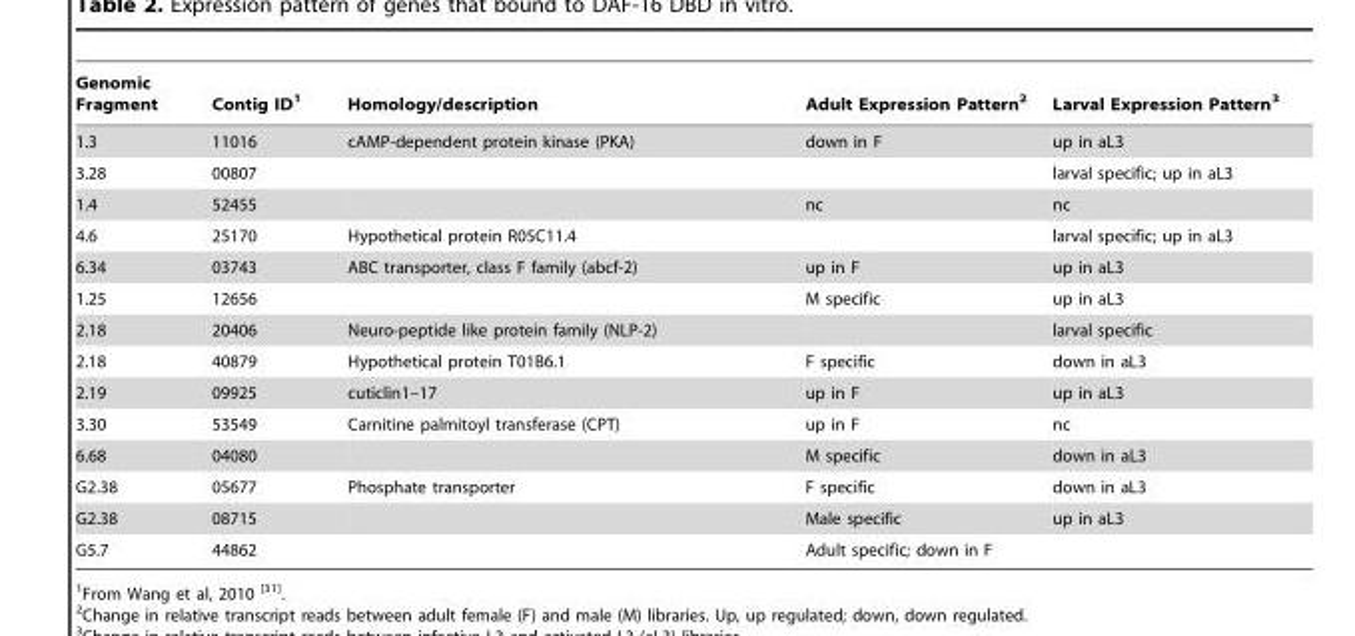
<table><thead><tr><td>Genomic Fragment</td><td>Contig ID<sup>1</sup></td><td>Homology/description</td><td>Adult Expression Pattern<sup>2</sup></td><td>Larval Expression Pattern<sup>3</sup></td></tr></thead><tbody><tr><td>1.3</td><td>11016</td><td>cAMP-dependent protein kinase (PKA)</td><td>down in F</td><td>up in aL3</td></tr><tr><td>3.28</td><td>00807</td><td></td><td></td><td>larval specific; up in aL3</td></tr><tr><td>1.4</td><td>52455</td><td></td><td>nc</td><td>nc</td></tr><tr><td>4.6</td><td>25170</td><td>Hypothetical protein R05C11.4</td><td></td><td>larval specific; up in aL3</td></tr><tr><td>6.34</td><td>03743</td><td>ABC transporter, class F family (abcf-2)</td><td>up in F</td><td>up in aL3</td></tr><tr><td>1.25</td><td>12656</td><td></td><td>M specific</td><td>up in aL3</td></tr><tr><td>2.18</td><td>20406</td><td>Neuro-peptide like protein family (NLP-2)</td><td></td><td>larval specific</td></tr><tr><td>2.18</td><td>40879</td><td>Hypothetical protein T01B6.1</td><td>F specific</td><td>down in aL3</td></tr><tr><td>2.19</td><td>09925</td><td>cuticlin1–17</td><td>up in F</td><td>up in aL3</td></tr><tr><td>3.30</td><td>53549</td><td>Carnitine palmitoyl transferase (CPT)</td><td>up in F</td><td>nc</td></tr><tr><td>6.68</td><td>04080</td><td></td><td>M specific</td><td>down in aL3</td></tr><tr><td>G2.38</td><td>05677</td><td>Phosphate transporter</td><td>F specific</td><td>down in aL3</td></tr><tr><td>G2.38</td><td>08715</td><td></td><td>Male specific</td><td>up in aL3</td></tr><tr><td>G5.7</td><td>44862</td><td></td><td>Adult specific; down in F</td><td></td></tr></tbody></table>